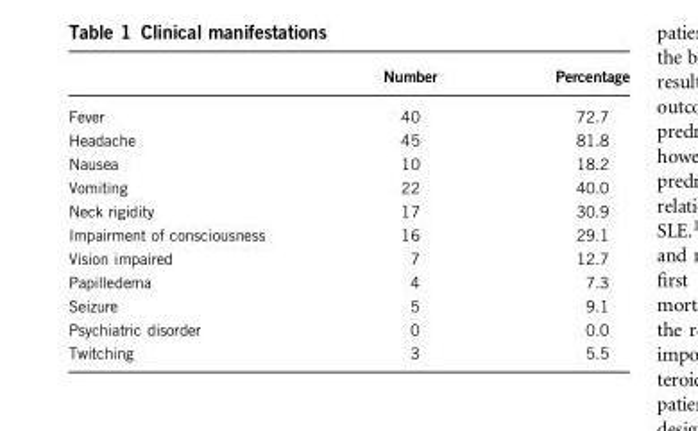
<table><thead><tr><td></td><td>Number</td><td>Percentage</td></tr></thead><tbody><tr><td>Fever</td><td>40</td><td>72.7</td></tr><tr><td>Headache</td><td>45</td><td>81.8</td></tr><tr><td>Nausea</td><td>10</td><td>18.2</td></tr><tr><td>Vomiting</td><td>22</td><td>40.0</td></tr><tr><td>Neck rigidity</td><td>17</td><td>30.9</td></tr><tr><td>Impairment of consciousness</td><td>16</td><td>29.1</td></tr><tr><td>Vision impaired</td><td>7</td><td>12.7</td></tr><tr><td>Papilledema</td><td>4</td><td>7.3</td></tr><tr><td>Seizure</td><td>5</td><td>9.1</td></tr><tr><td>Psychiatric disorder</td><td>0</td><td>0.0</td></tr><tr><td>Twitching</td><td>3</td><td>5.5</td></tr></tbody></table>